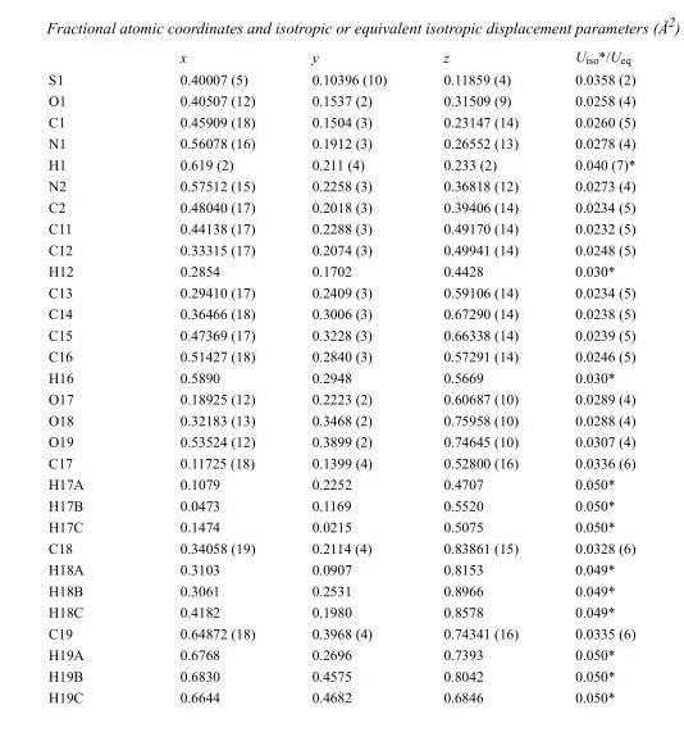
<table><thead><tr><td></td><td>x</td><td>y</td><td>z</td><td>U<sub>iso</sub>*/U<sub>eq</sub></td></tr></thead><tbody><tr><td>S1</td><td>0.40007 (5)</td><td>0.10396 (10)</td><td>0.11859 (4)</td><td>0.0358 (2)</td></tr><tr><td>O1</td><td>0.40507 (12)</td><td>0.1537 (2)</td><td>0.31509 (9)</td><td>0.0258 (4)</td></tr><tr><td>C1</td><td>0.45909 (18)</td><td>0.1504 (3)</td><td>0.23147 (14)</td><td>0.0260 (5)</td></tr><tr><td>N1</td><td>0.56078 (16)</td><td>0.1912 (3)</td><td>0.26552 (13)</td><td>0.0278 (4)</td></tr><tr><td>H1</td><td>0.619 (2)</td><td>0.211 (4)</td><td>0.233 (2)</td><td>0.040 (7)*</td></tr><tr><td>N2</td><td>0.57512 (15)</td><td>0.2258 (3)</td><td>0.36818 (12)</td><td>0.0273 (4)</td></tr><tr><td>C2</td><td>0.48040 (17)</td><td>0.2018 (3)</td><td>0.39406 (14)</td><td>0.0234 (5)</td></tr><tr><td>C11</td><td>0.44138 (17)</td><td>0.2288 (3)</td><td>0.49170 (14)</td><td>0.0232 (5)</td></tr><tr><td>C12</td><td>0.33315 (17)</td><td>0.2074 (3)</td><td>0.49941 (14)</td><td>0.0248 (5)</td></tr><tr><td>H12</td><td>0.2854</td><td>0.1702</td><td>0.4428</td><td>0.030*</td></tr><tr><td>C13</td><td>0.29410 (17)</td><td>0.2409 (3)</td><td>0.59106 (14)</td><td>0.0234 (5)</td></tr><tr><td>C14</td><td>0.36466 (18)</td><td>0.3006 (3)</td><td>0.67290 (14)</td><td>0.0238 (5)</td></tr><tr><td>C15</td><td>0.47369 (17)</td><td>0.3228 (3)</td><td>0.66338 (14)</td><td>0.0239 (5)</td></tr><tr><td>C16</td><td>0.51427 (18)</td><td>0.2840 (3)</td><td>0.57291 (14)</td><td>0.0246 (5)</td></tr><tr><td>H16</td><td>0.5890</td><td>0.2948</td><td>0.5669</td><td>0.030*</td></tr><tr><td>O17</td><td>0.18925 (12)</td><td>0.2223 (2)</td><td>0.60687 (10)</td><td>0.0289 (4)</td></tr><tr><td>O18</td><td>0.32183 (13)</td><td>0.3468 (2)</td><td>0.75958 (10)</td><td>0.0288 (4)</td></tr><tr><td>O19</td><td>0.53524 (12)</td><td>0.3899 (2)</td><td>0.74645 (10)</td><td>0.0307 (4)</td></tr><tr><td>C17</td><td>0.11725 (18)</td><td>0.1399 (4)</td><td>0.52800 (16)</td><td>0.0336 (6)</td></tr><tr><td>H17A</td><td>0.1079</td><td>0.2252</td><td>0.4707</td><td>0.050*</td></tr><tr><td>H17B</td><td>0.0473</td><td>0.1169</td><td>0.5520</td><td>0.050*</td></tr><tr><td>H17C</td><td>0.1474</td><td>0.0215</td><td>0.5075</td><td>0.050*</td></tr><tr><td>C18</td><td>0.34058 (19)</td><td>0.2114 (4)</td><td>0.83861 (15)</td><td>0.0328 (6)</td></tr><tr><td>H18A</td><td>0.3103</td><td>0.0907</td><td>0.8153</td><td>0.049*</td></tr><tr><td>H18B</td><td>0.3061</td><td>0.2531</td><td>0.8966</td><td>0.049*</td></tr><tr><td>H18C</td><td>0.4182</td><td>0.1980</td><td>0.8578</td><td>0.049*</td></tr><tr><td>C19</td><td>0.64872 (18)</td><td>0.3968 (4)</td><td>0.74341 (16)</td><td>0.0335 (6)</td></tr><tr><td>H19A</td><td>0.6768</td><td>0.2696</td><td>0.7393</td><td>0.050*</td></tr><tr><td>H19B</td><td>0.6830</td><td>0.4575</td><td>0.8042</td><td>0.050*</td></tr><tr><td>H19C</td><td>0.6644</td><td>0.4682</td><td>0.6846</td><td>0.050*</td></tr></tbody></table>